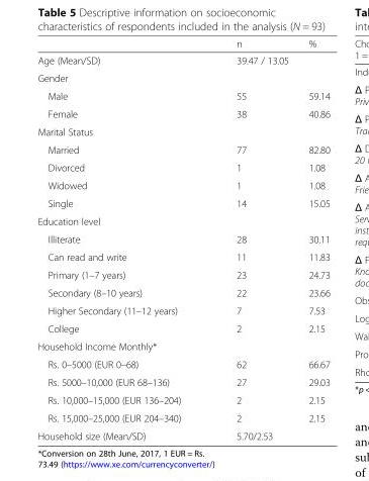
<table><thead><tr><td></td><td>n</td><td>%</td></tr></thead><tbody><tr><td>Age (Mean/SD)</td><td colspan="2">39.47 / 13.05</td></tr><tr><td colspan="3">Gender</td></tr><tr><td>Male</td><td>55</td><td>59.14</td></tr><tr><td>Female</td><td>38</td><td>40.86</td></tr><tr><td colspan="3">Marital Status</td></tr><tr><td>Married</td><td>77</td><td>82.80</td></tr><tr><td>Divorced</td><td>1</td><td>1.08</td></tr><tr><td>Widowed</td><td>1</td><td>1.08</td></tr><tr><td>Single</td><td>14</td><td>15.05</td></tr><tr><td colspan="3">Education level</td></tr><tr><td>Illiterate</td><td>28</td><td>30.11</td></tr><tr><td>Can read and write</td><td>11</td><td>11.83</td></tr><tr><td>Primary (1–7 years)</td><td>23</td><td>24.73</td></tr><tr><td>Secondary (8–10 years)</td><td>22</td><td>23.66</td></tr><tr><td>Higher Secondary (11–12 years)</td><td>7</td><td>7.53</td></tr><tr><td>College</td><td>2</td><td>2.15</td></tr><tr><td colspan="3">Household Income Monthly*</td></tr><tr><td>Rs. 0–5000 (EUR 0–68)</td><td>62</td><td>66.67</td></tr><tr><td>Rs. 5000–10,000 (EUR 68–136)</td><td>27</td><td>29.03</td></tr><tr><td>Rs. 10,000–15,000 (EUR 136–204)</td><td>2</td><td>2.15</td></tr><tr><td>Rs. 15,000–25,000 (EUR 204–340)</td><td>2</td><td>2.15</td></tr><tr><td>Household size (Mean/SD)</td><td colspan="2">5.70/2.53</td></tr></tbody></table>